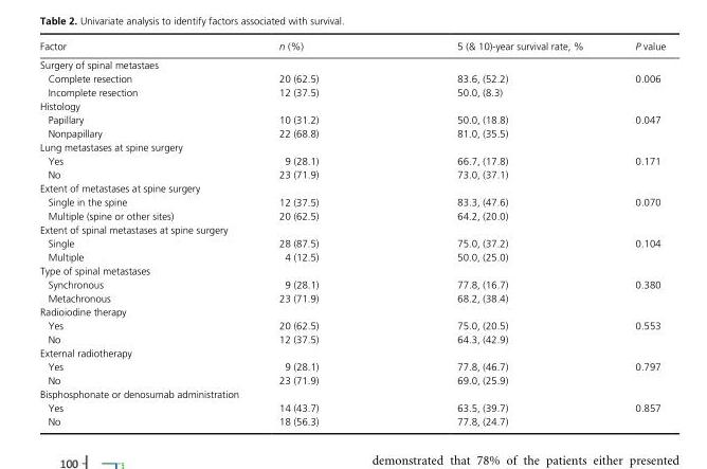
<table><thead><tr><td>Factor</td><td>n (%)</td><td>5 (&amp; 10)- year survival rate, %</td><td>P value</td></tr></thead><tbody><tr><td colspan="4">Surgery of spinal metastaes</td></tr><tr><td>Complete resection</td><td>20 (62.5)</td><td>83.6, (52.2)</td><td rowspan="2">0.006</td></tr><tr><td>Incomplete resection</td><td>12 (37.5)</td><td>50.0, (8.3)</td></tr><tr><td colspan="4">Histology</td></tr><tr><td>Papillary</td><td>10 (31.2)</td><td>50.0, (18.8)</td><td rowspan="2">0.047</td></tr><tr><td>Nonpapillary</td><td>22 (68.8)</td><td>81.0, (35.5)</td></tr><tr><td colspan="4">Lung metastases at spine surgery</td></tr><tr><td>Yes</td><td>9 (28.1)</td><td>66.7, (17.8)</td><td rowspan="2">0.171</td></tr><tr><td>No</td><td>23 (71.9)</td><td>73.0, (37.1)</td></tr><tr><td colspan="4">Extent of metastases at spine surgery</td></tr><tr><td>Single in the spine</td><td>12 (37.5)</td><td>83.3, (47.6)</td><td rowspan="2">0.070</td></tr><tr><td>Multiple (spine or other sites)</td><td>20 (62.5)</td><td>64.2, (20.0)</td></tr><tr><td colspan="4">Extent of spinal metastases at spine surgery</td></tr><tr><td>Single</td><td>28 (87.5)</td><td>75.0, (37.2)</td><td rowspan="2">0.104</td></tr><tr><td>Multiple</td><td>4 (12.5)</td><td>50.0, (25.0)</td></tr><tr><td colspan="4">Type of spinal metastases</td></tr><tr><td>Synchronous</td><td>9 (28.1)</td><td>77.8, (16.7)</td><td rowspan="2">0.380</td></tr><tr><td>Metachronous</td><td>23 (71.9)</td><td>68.2, (38.4)</td></tr><tr><td colspan="4">Radioiodine therapy</td></tr><tr><td>Yes</td><td>20 (62.5)</td><td>75.0, (20.5)</td><td rowspan="2">0.553</td></tr><tr><td>No</td><td>12 (37.5)</td><td>64.3, (42.9)</td></tr><tr><td colspan="4">External radiotherapy</td></tr><tr><td>Yes</td><td>9 (28.1)</td><td>77.8, (46.7)</td><td rowspan="2">0.797</td></tr><tr><td>No</td><td>23 (71.9)</td><td>69.0, (25.9)</td></tr><tr><td colspan="4">Bisphosphonate or denosumab administration</td></tr><tr><td>Yes</td><td>14 (43.7)</td><td>63.5, (39.7)</td><td rowspan="2">0.857</td></tr><tr><td>No</td><td>18 (56.3)</td><td>77.8, (24.7)</td></tr></tbody></table>